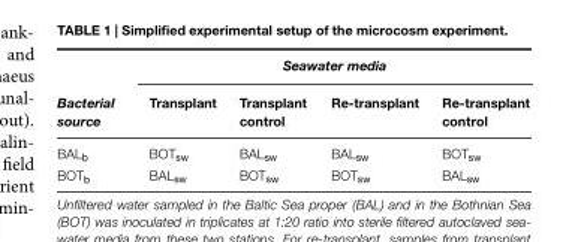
<table><thead><tr><td rowspan="2">Bacterial source</td><td colspan="4">Seawater media</td></tr><tr><td>Transplant</td><td>Transplant control</td><td>Re-transplant</td><td>Re-transplant control</td></tr></thead><tbody><tr><td>BAL<sub>b</sub></td><td>BOT<sub>sw</sub></td><td>BAL<sub>sw</sub></td><td>BAL<sub>sw</sub></td><td>BOT<sub>sw</sub></td></tr><tr><td>BOT<sub>b</sub></td><td>BAL<sub>sw</sub></td><td>BOT<sub>sw</sub></td><td>BOT<sub>sw</sub></td><td>BAL<sub>sw</sub></td></tr></tbody></table>